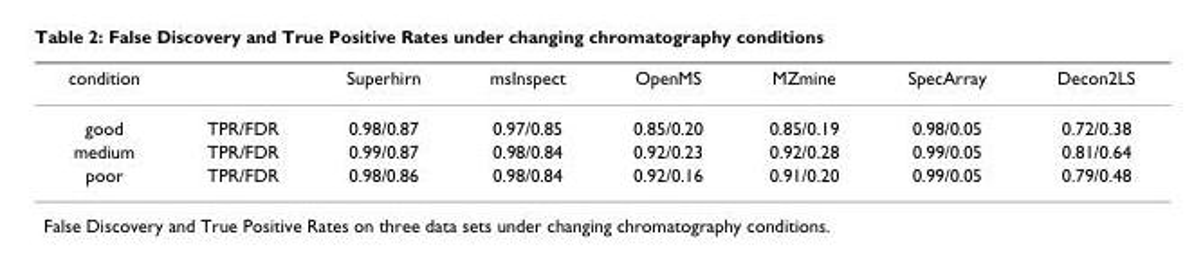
<table><thead><tr><td>condition</td><td></td><td>Superhirn</td><td>msInspect</td><td>OpenMS</td><td>MZmine</td><td>SpecArray</td><td>Decon2LS</td></tr></thead><tbody><tr><td>good</td><td>TPR/FDR</td><td>0.98/0.87</td><td>0.97/0.85</td><td>0.85/0.20</td><td>0.85/0.19</td><td>0.98/0.05</td><td>0.72/0.38</td></tr><tr><td>medium</td><td>TPR/FDR</td><td>0.99/0.87</td><td>0.98/0.84</td><td>0.92/0.23</td><td>0.92/0.28</td><td>0.99/0.05</td><td>0.81/0.64</td></tr><tr><td>poor</td><td>TPR/FDR</td><td>0.98/0.86</td><td>0.98/0.84</td><td>0.92/0.16</td><td>0.91/0.20</td><td>0.99/0.05</td><td>0.79/0.48</td></tr></tbody></table>